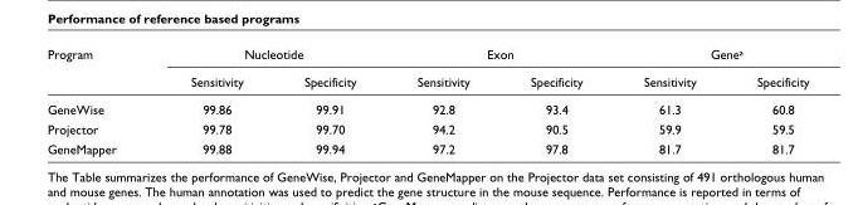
<table><thead><tr><td rowspan="2">Program</td><td colspan="2">Nucleotide</td><td colspan="2">Exon</td><td colspan="2">Genea</td></tr><tr><td>Sensitivity</td><td>Specificity</td><td>Sensitivity</td><td>Specificity</td><td>Sensitivity</td><td>Specificity</td></tr></thead><tbody><tr><td>GeneWise</td><td>99.86</td><td>99.91</td><td>92.8</td><td>93.4</td><td>61.3</td><td>60.8</td></tr><tr><td>Projector</td><td>99.78</td><td>99.70</td><td>94.2</td><td>90.5</td><td>59.9</td><td>59.5</td></tr><tr><td>GeneMapper</td><td>99.88</td><td>99.94</td><td>97.2</td><td>97.8</td><td>81.7</td><td>81.7</td></tr></tbody></table>